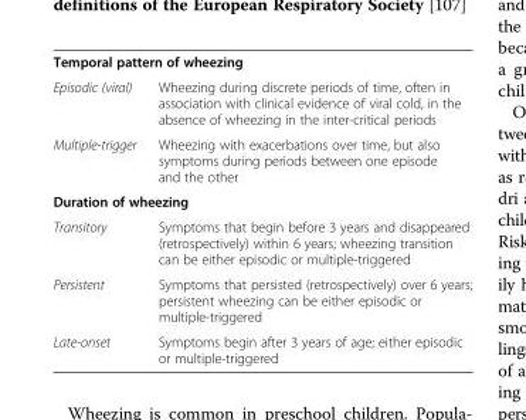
<table><tbody><tr><td colspan="2">Temporal pattern of wheezing</td></tr><tr><td>Episodic (viral)</td><td>Wheezing during discrete periods of time, often in association with clinical evidence of viral cold, in the absence of wheezing in the inter-critical periods</td></tr><tr><td>Multiple-trigger</td><td>Wheezing with exacerbations over time, but also symptoms during periods between one episode and the other</td></tr><tr><td colspan="2">Duration of wheezing</td></tr><tr><td>Transitory</td><td>Symptoms that begin before 3 years and disappeared (retrospectively) within 6 years; wheezing transition can be either episodic or multiple-triggered</td></tr><tr><td>Persistent</td><td>Symptoms that persisted (retrospectively) over 6 years; persistent wheezing can be either episodic or multiple-triggered</td></tr><tr><td>Late-onset</td><td>Symptoms begin after 3 years of age; either episodic or multiple-triggered</td></tr></tbody></table>